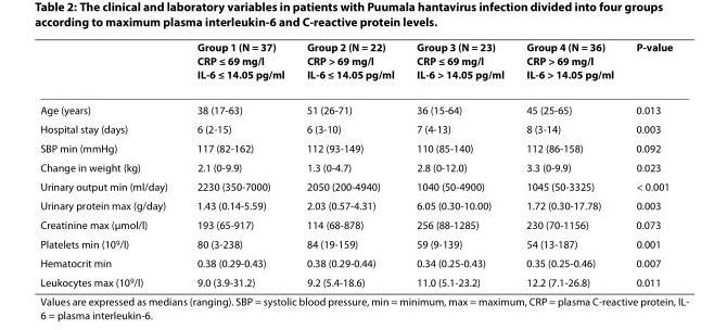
<table><thead><tr><td></td><td>Group 1 (N = 37) CRP ≤ 69 mg/l IL-6 ≤ 14.05 pg/ml</td><td>Group 2 (N = 22) CRP &gt; 69 mg/l IL-6 ≤ 14.05 pg/ml</td><td>Group 3 (N = 23) CRP ≤ 69 mg/l IL-6 &gt; 14.05 pg/ml</td><td>Group 4 (N = 36) CRP &gt; 69 mg/l IL-6 &gt; 14.05 pg/ml</td><td>P-value</td></tr></thead><tbody><tr><td>Age (years)</td><td>38 (17-63)</td><td>51 (26-71)</td><td>36 (15-64)</td><td>45 (25-65)</td><td>0.013</td></tr><tr><td>Hospital stay (days)</td><td>6 (2-15)</td><td>6 (3-10)</td><td>7 (4-13)</td><td>8 (3-14)</td><td>0.003</td></tr><tr><td>SBP min (mmHg)</td><td>117 (82-162)</td><td>112 (93-149)</td><td>110 (85-140)</td><td>112 (86-158)</td><td>0.092</td></tr><tr><td>Change in weight (kg)</td><td>2.1 (0-9.9)</td><td>1.3 (0-4.7)</td><td>2.8 (0-12.0)</td><td>3.3 (0-9.9)</td><td>0.023</td></tr><tr><td>Urinary output min (ml/day)</td><td>2230 (350-7000)</td><td>2050 (200-4940)</td><td>1040 (50-4900)</td><td>1045 (50-3325)</td><td>&lt; 0.001</td></tr><tr><td>Urinary protein max (g/day)</td><td>1.43 (0.14-5.59)</td><td>2.03 (0.57-4.31)</td><td>6.05 (0.30-10.00)</td><td>1.72 (0.30-17.78)</td><td>0.003</td></tr><tr><td>Creatinine max (μmol/l)</td><td>193 (65-917)</td><td>114 (68-878)</td><td>256 (88-1285)</td><td>230 (70-1156)</td><td>0.073</td></tr><tr><td>Platelets min (10<sup>9</sup>/l)</td><td>80 (3-238)</td><td>84 (19-159)</td><td>59 (9-139)</td><td>54 (13-187)</td><td>0.001</td></tr><tr><td>Hematocrit min</td><td>0.38 (0.29-0.43)</td><td>0.38 (0.29-0.44)</td><td>0.34 (0.25-0.43)</td><td>0.35 (0.25-0.46)</td><td>0.007</td></tr><tr><td>Leukocytes max (10<sup>9</sup>/l)</td><td>9.0 (3.9-31.2)</td><td>9.2 (5.4-18.6)</td><td>11.0 (5.1-23.2)</td><td>12.2 (7.1-26.8)</td><td>0.011</td></tr></tbody></table>